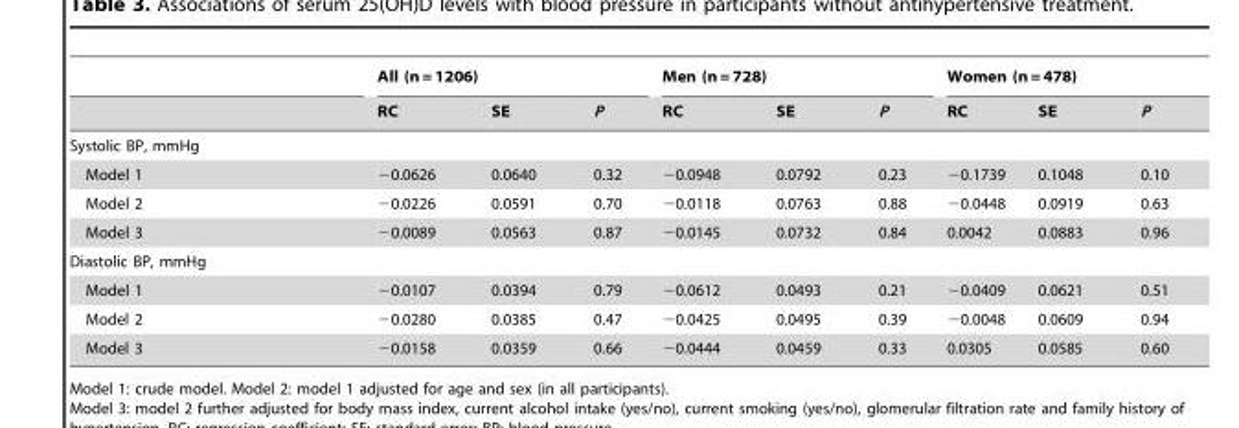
<table><thead><tr><td rowspan="2"></td><td colspan="3">All (n = 1206)</td><td colspan="3">Men (n = 728)</td><td colspan="3">Women (n = 478)</td></tr><tr><td>RC</td><td>SE</td><td>P</td><td>RC</td><td>SE</td><td>P</td><td>RC</td><td>SE</td><td>P</td></tr></thead><tbody><tr><td colspan="10">Systolic BP, mmHg</td></tr><tr><td>Model 1</td><td>−0.0626</td><td>0.0640</td><td>0.32</td><td>−0.0948</td><td>0.0792</td><td>0.23</td><td>−0.1739</td><td>0.1048</td><td>0.10</td></tr><tr><td>Model 2</td><td>−0.0226</td><td>0.0591</td><td>0.70</td><td>−0.0118</td><td>0.0763</td><td>0.88</td><td>−0.0448</td><td>0.0919</td><td>0.63</td></tr><tr><td>Model 3</td><td>−0.0089</td><td>0.0563</td><td>0.87</td><td>−0.0145</td><td>0.0732</td><td>0.84</td><td>0.0042</td><td>0.0883</td><td>0.96</td></tr><tr><td colspan="10">Diastolic BP, mmHg</td></tr><tr><td>Model 1</td><td>−0.0107</td><td>0.0394</td><td>0.79</td><td>−0.0612</td><td>0.0493</td><td>0.21</td><td>−0.0409</td><td>0.0621</td><td>0.51</td></tr><tr><td>Model 2</td><td>−0.0280</td><td>0.0385</td><td>0.47</td><td>−0.0425</td><td>0.0495</td><td>0.39</td><td>−0.0048</td><td>0.0609</td><td>0.94</td></tr><tr><td>Model 3</td><td>−0.0158</td><td>0.0359</td><td>0.66</td><td>−0.0444</td><td>0.0459</td><td>0.33</td><td>0.0305</td><td>0.0585</td><td>0.60</td></tr></tbody></table>